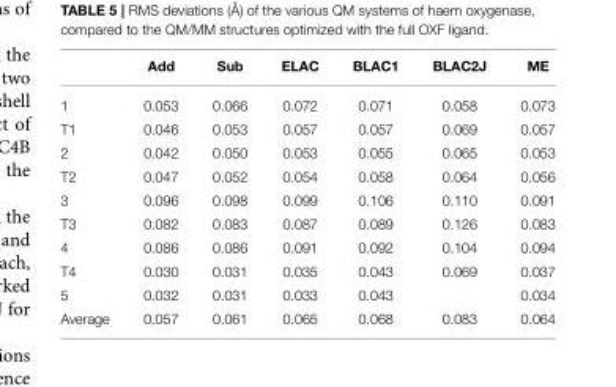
<table><thead><tr><td></td><td>Add</td><td>Sub</td><td>ELAC</td><td>BLAC1</td><td>BLAC2J</td><td>ME</td></tr></thead><tbody><tr><td>1</td><td>0.053</td><td>0.066</td><td>0.072</td><td>0.071</td><td>0.058</td><td>0.073</td></tr><tr><td>T1</td><td>0.046</td><td>0.053</td><td>0.057</td><td>0.057</td><td>0.069</td><td>0.057</td></tr><tr><td>2</td><td>0.042</td><td>0.050</td><td>0.053</td><td>0.055</td><td>0.065</td><td>0.053</td></tr><tr><td>T2</td><td>0.047</td><td>0.052</td><td>0.054</td><td>0.058</td><td>0.064</td><td>0.056</td></tr><tr><td>3</td><td>0.096</td><td>0.098</td><td>0.099</td><td>0.106</td><td>0.110</td><td>0.091</td></tr><tr><td>T3</td><td>0.082</td><td>0.083</td><td>0.087</td><td>0.089</td><td>0.126</td><td>0.083</td></tr><tr><td>4</td><td>0.086</td><td>0.086</td><td>0.091</td><td>0.092</td><td>0.104</td><td>0.094</td></tr><tr><td>T4</td><td>0.030</td><td>0.031</td><td>0.035</td><td>0.043</td><td>0.069</td><td>0.037</td></tr><tr><td>5</td><td>0.032</td><td>0.031</td><td>0.033</td><td>0.043</td><td></td><td>0.034</td></tr><tr><td>Average</td><td>0.057</td><td>0.061</td><td>0.065</td><td>0.068</td><td>0.083</td><td>0.064</td></tr></tbody></table>